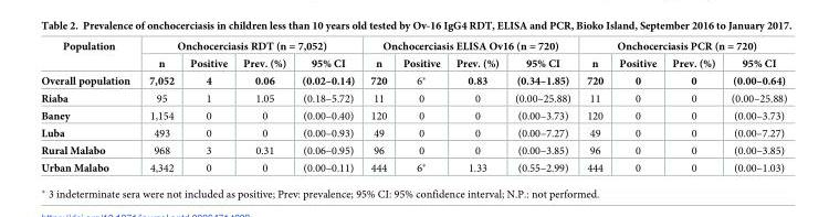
<table><thead><tr><td rowspan="2">Population</td><td colspan="4">Onchocerciasis RDT (n = 7,052)</td><td colspan="4">Onchocerciasis ELISA Ov16 (n = 720)</td><td colspan="4">Onchocerciasis PCR (n = 720)</td></tr><tr><td>n</td><td>Positive</td><td>Prev. (%)</td><td>95% CI</td><td>n</td><td>Positive</td><td>Prev. (%)</td><td>95% CI</td><td>n</td><td>Positive</td><td>Prev. (%)</td><td>95% CI</td></tr></thead><tbody><tr><td>Overall population</td><td>7,052</td><td>4</td><td>0.06</td><td>(0.02–0.14)</td><td>720</td><td>6*</td><td>0.83</td><td>(0.34–1.85)</td><td>720</td><td>0</td><td>0</td><td>(0.00–0.64)</td></tr><tr><td>Riaba</td><td>95</td><td>1</td><td>1.05</td><td>(0.18–5.72)</td><td>11</td><td>0</td><td>0</td><td>(0.00–25.88)</td><td>11</td><td>0</td><td>0</td><td>(0.00–25.88)</td></tr><tr><td>Baney</td><td>1,154</td><td>0</td><td>0</td><td>(0.00–0.40)</td><td>120</td><td>0</td><td>0</td><td>(0.00–3.73)</td><td>120</td><td>0</td><td>0</td><td>(0.00–3.73)</td></tr><tr><td>Luba</td><td>493</td><td>0</td><td>0</td><td>(0.00–0.93)</td><td>49</td><td>0</td><td>0</td><td>(0.00–7.27)</td><td>49</td><td>0</td><td>0</td><td>(0.00–7.27)</td></tr><tr><td>Rural Malabo</td><td>968</td><td>3</td><td>0.31</td><td>(0.06–0.95)</td><td>96</td><td>0</td><td>0</td><td>(0.00–3.85)</td><td>96</td><td>0</td><td>0</td><td>(0.00–3.85)</td></tr><tr><td>Urban Malabo</td><td>4,342</td><td>0</td><td>0</td><td>(0.00–0.11)</td><td>444</td><td>6*</td><td>1.33</td><td>(0.55–2.99)</td><td>444</td><td>0</td><td>0</td><td>(0.00–1.03)</td></tr></tbody></table>